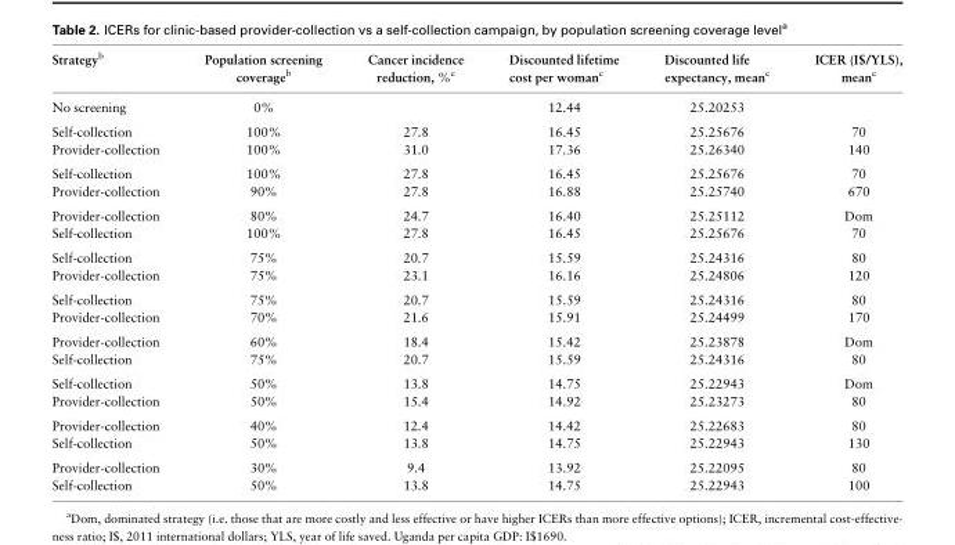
<table><thead><tr><td>Strategy<sup>b</sup></td><td>Population screening coverage<sup>b</sup></td><td>Cancer incidence reduction, %<sup>c</sup></td><td>Discounted lifetime cost per woman<sup>c</sup></td><td>Discounted life expectancy, mean<sup>c</sup></td><td>ICER (I$/YLS), mean<sup>c</sup></td></tr></thead><tbody><tr><td>No screening</td><td>0%</td><td></td><td>12.44</td><td>25.20253</td><td></td></tr><tr><td>Self-collection</td><td>100%</td><td>27.8</td><td>16.45</td><td>25.25676</td><td>70</td></tr><tr><td>Provider-collection</td><td>100%</td><td>31.0</td><td>17.36</td><td>25.26340</td><td>140</td></tr><tr><td>Self-collection</td><td>100%</td><td>27.8</td><td>16.45</td><td>25.25676</td><td>70</td></tr><tr><td>Provider-collection</td><td>90%</td><td>27.8</td><td>16.88</td><td>25.25740</td><td>670</td></tr><tr><td>Provider-collection</td><td>80%</td><td>24.7</td><td>16.40</td><td>25.25112</td><td>Dom</td></tr><tr><td>Self-collection</td><td>100%</td><td>27.8</td><td>16.45</td><td>25.25676</td><td>70</td></tr><tr><td>Self-collection</td><td>75%</td><td>20.7</td><td>15.59</td><td>25.24316</td><td>80</td></tr><tr><td>Provider-collection</td><td>75%</td><td>23.1</td><td>16.16</td><td>25.24806</td><td>120</td></tr><tr><td>Self-collection</td><td>75%</td><td>20.7</td><td>15.59</td><td>25.24316</td><td>80</td></tr><tr><td>Provider-collection</td><td>70%</td><td>21.6</td><td>15.91</td><td>25.24499</td><td>170</td></tr><tr><td>Provider-collection</td><td>60%</td><td>18.4</td><td>15.42</td><td>25.23878</td><td>Dom</td></tr><tr><td>Self-collection</td><td>75%</td><td>20.7</td><td>15.59</td><td>25.24316</td><td>80</td></tr><tr><td>Self-collection</td><td>50%</td><td>13.8</td><td>14.75</td><td>25.22943</td><td>Dom</td></tr><tr><td>Provider-collection</td><td>50%</td><td>15.4</td><td>14.92</td><td>25.23273</td><td>80</td></tr><tr><td>Provider-collection</td><td>40%</td><td>12.4</td><td>14.42</td><td>25.22683</td><td>80</td></tr><tr><td>Self-collection</td><td>50%</td><td>13.8</td><td>14.75</td><td>25.22943</td><td>130</td></tr><tr><td>Provider-collection</td><td>30%</td><td>9.4</td><td>13.92</td><td>25.22095</td><td>80</td></tr><tr><td>Self-collection</td><td>50%</td><td>13.8</td><td>14.75</td><td>25.22943</td><td>100</td></tr></tbody></table>